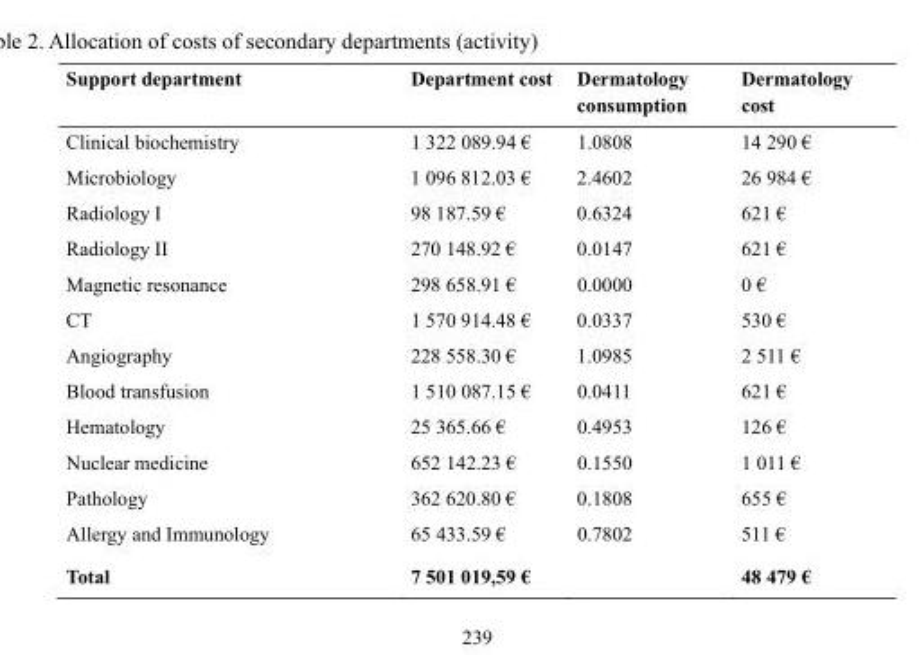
<table><thead><tr><td>Support department</td><td>Department cost</td><td>Dermatology consumption</td><td>Dermatology cost</td></tr></thead><tbody><tr><td>Clinical biochemistry</td><td>1 322 089.94 €</td><td>1.0808</td><td>14 290 €</td></tr><tr><td>Microbiology</td><td>1 096 812.03 €</td><td>2.4602</td><td>26 984 €</td></tr><tr><td>Radiology I</td><td>98 187.59 €</td><td>0.6324</td><td>621 €</td></tr><tr><td>Radiology II</td><td>270 148.92 €</td><td>0.0147</td><td>621 €</td></tr><tr><td>Magnetic resonance</td><td>298 658.91 €</td><td>0.0000</td><td>0 €</td></tr><tr><td>CT</td><td>1 570 914.48 €</td><td>0.0337</td><td>530 €</td></tr><tr><td>Angiography</td><td>228 558.30 €</td><td>1.0985</td><td>2 511 €</td></tr><tr><td>Blood transfusion</td><td>1 510 087.15 €</td><td>0.0411</td><td>621 €</td></tr><tr><td>Hematology</td><td>25 365.66 €</td><td>0.4953</td><td>126 €</td></tr><tr><td>Nuclear medicine</td><td>652 142.23 €</td><td>0.1550</td><td>1 011 €</td></tr><tr><td>Pathology</td><td>362 620.80 €</td><td>0.1808</td><td>655 €</td></tr><tr><td>Allergy and Immunology</td><td>65 433.59 €</td><td>0.7802</td><td>511 €</td></tr><tr><td>Total</td><td>7 501 019,59 €</td><td></td><td>48 479 €</td></tr></tbody></table>